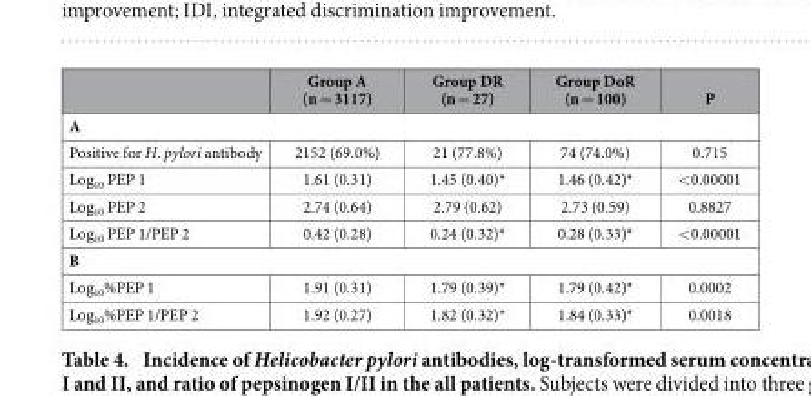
<table><thead><tr><td></td><td>Group A (n = 3117)</td><td>Group DR (n = 27)</td><td>Group DoR (n = 100)</td><td>P</td></tr></thead><tbody><tr><td colspan="5">A</td></tr><tr><td>Positive for H. pylori antibody</td><td>2152 (69.0%)</td><td>21 (77.8%)</td><td>74 (74.0%)</td><td>0.715</td></tr><tr><td>Log<sub>10</sub> PEP 1</td><td>1.61 (0.31)</td><td>1.45 (0.40)*</td><td>1.46 (0.42)*</td><td>&lt; 0.00001</td></tr><tr><td>Log<sub>10</sub> PEP 2</td><td>2.74 (0.64)</td><td>2.79 (0.62)</td><td>2.73 (0.59)</td><td>0.8827</td></tr><tr><td>Log<sub>10</sub> PEP 1/PEP 2</td><td>0.42 (0.28)</td><td>0.24 (0.32)*</td><td>0.28 (0.33)*</td><td>&lt; 0.00001</td></tr><tr><td colspan="5">B</td></tr><tr><td>Log<sub>10</sub>%PEP 1</td><td>1.91 (0.31)</td><td>1.79 (0.39)*</td><td>1.79 (0.42)*</td><td>0.0002</td></tr><tr><td>Log<sub>10</sub>%PEP 1/PEP 2</td><td>1.92 (0.27)</td><td>1.82 (0.32)*</td><td>1.84 (0.33)*</td><td>0.0018</td></tr></tbody></table>